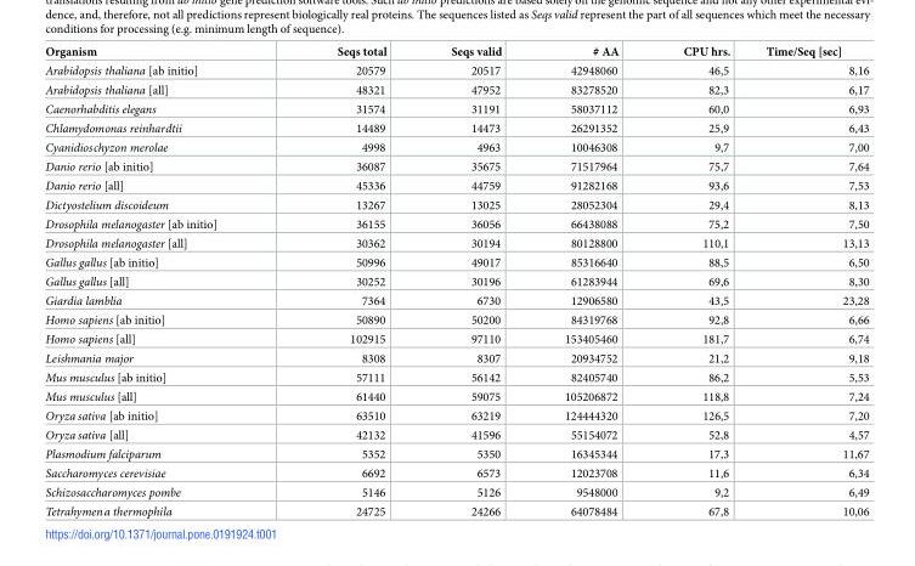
<table><thead><tr><td>Organism</td><td>Seqs total</td><td>Seqs valid</td><td># AA</td><td>CPU hrs.</td><td>Time/Seq [sec]</td></tr></thead><tbody><tr><td>Arabidopsis thaliana [ab initio]</td><td>20579</td><td>20517</td><td>42948060</td><td>46,5</td><td>8,16</td></tr><tr><td>Arabidopsis thaliana [all]</td><td>48321</td><td>47952</td><td>83278520</td><td>82,3</td><td>6,17</td></tr><tr><td>Caenorhabditis elegans</td><td>31574</td><td>31191</td><td>58037112</td><td>60,0</td><td>6,93</td></tr><tr><td>Chlamydomonas reinhardtii</td><td>14489</td><td>14473</td><td>26291352</td><td>25,9</td><td>6,43</td></tr><tr><td>Cyanidioschyzon merolae</td><td>4998</td><td>4963</td><td>10046308</td><td>9,7</td><td>7,00</td></tr><tr><td>Danio rerio [ab initio]</td><td>36087</td><td>35675</td><td>71517964</td><td>75,7</td><td>7,64</td></tr><tr><td>Danio rerio [all]</td><td>45336</td><td>44759</td><td>91282168</td><td>93,6</td><td>7,53</td></tr><tr><td>Dictyostelium discoideum</td><td>13267</td><td>13025</td><td>28052304</td><td>29,4</td><td>8,13</td></tr><tr><td>Drosophila melanogaster [ab initio]</td><td>36155</td><td>36056</td><td>66438088</td><td>75,2</td><td>7,50</td></tr><tr><td>Drosophila melanogaster [all]</td><td>30362</td><td>30194</td><td>80128800</td><td>110,1</td><td>13,13</td></tr><tr><td>Gallus gallus [ab initio]</td><td>50996</td><td>49017</td><td>85316640</td><td>88,5</td><td>6,50</td></tr><tr><td>Gallus gallus [all]</td><td>30252</td><td>30196</td><td>61283944</td><td>69,6</td><td>8,30</td></tr><tr><td>Giardia lamblia</td><td>7364</td><td>6730</td><td>12906580</td><td>43,5</td><td>23,28</td></tr><tr><td>Homo sapiens [ab initio]</td><td>50890</td><td>50200</td><td>84319768</td><td>92,8</td><td>6,66</td></tr><tr><td>Homo sapiens [all]</td><td>102915</td><td>97110</td><td>153405460</td><td>181,7</td><td>6,74</td></tr><tr><td>Leishmania major</td><td>8308</td><td>8307</td><td>20934752</td><td>21,2</td><td>9,18</td></tr><tr><td>Mus musculus [ab initio]</td><td>57111</td><td>56142</td><td>82405740</td><td>86,2</td><td>5,53</td></tr><tr><td>Mus musculus [all]</td><td>61440</td><td>59075</td><td>105206872</td><td>118,8</td><td>7,24</td></tr><tr><td>Oryza sativa [ab initio]</td><td>63510</td><td>63219</td><td>124444320</td><td>126,5</td><td>7,20</td></tr><tr><td>Oryza sativa [all]</td><td>42132</td><td>41596</td><td>55154072</td><td>52,8</td><td>4,57</td></tr><tr><td>Plasmodium falciparum</td><td>5352</td><td>5350</td><td>16345344</td><td>17,3</td><td>11,67</td></tr><tr><td>Saccharomyces cerevisiae</td><td>6692</td><td>6573</td><td>12023708</td><td>11,6</td><td>6,34</td></tr><tr><td>Schizosaccharomyces pombe</td><td>5146</td><td>5126</td><td>9548000</td><td>9,2</td><td>6,49</td></tr><tr><td>Tetrahymena thermophila</td><td>24725</td><td>24266</td><td>64078484</td><td>67,8</td><td>10,06</td></tr></tbody></table>